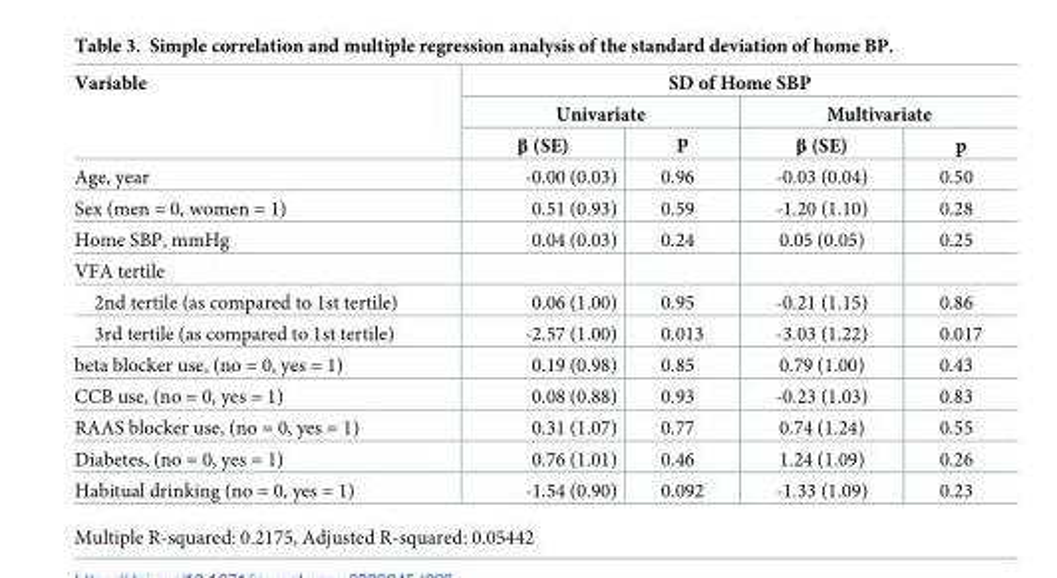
<table><thead><tr><td rowspan="3">Variable</td><td colspan="4">SD of Home SBP</td></tr><tr><td colspan="2">Univariate</td><td colspan="2">Multivariate</td></tr><tr><td>β (SE)</td><td>P</td><td>β (SE)</td><td>p</td></tr></thead><tbody><tr><td>Age, year</td><td>-0.00 (0.03)</td><td>0.96</td><td>-0.03 (0.04)</td><td>0.50</td></tr><tr><td>Sex (men = 0, women = 1)</td><td>0.51 (0.93)</td><td>0.59</td><td>-1.20 (1.10)</td><td>0.28</td></tr><tr><td>Home SBP, mmHg</td><td>0.04 (0.03)</td><td>0.24</td><td>0.05 (0.05)</td><td>0.25</td></tr><tr><td colspan="5">VFA tertile</td></tr><tr><td>2nd tertile (as compared to 1st tertile)</td><td>0.06 (1.00)</td><td>0.95</td><td>-0.21 (1.15)</td><td>0.86</td></tr><tr><td>3rd tertile (as compared to 1st tertile)</td><td>-2.57 (1.00)</td><td>0.013</td><td>-3.03 (1.22)</td><td>0.017</td></tr><tr><td>beta blocker use, (no = 0, yes = 1)</td><td>0.19 (0.98)</td><td>0.85</td><td>0.79 (1.00)</td><td>0.43</td></tr><tr><td>CCB use, (no = 0, yes = 1)</td><td>0.08 (0.88)</td><td>0.93</td><td>-0.23 (1.03)</td><td>0.83</td></tr><tr><td>RAAS blocker use, (no = 0, yes = 1)</td><td>0.31 (1.07)</td><td>0.77</td><td>0.74 (1.24)</td><td>0.55</td></tr><tr><td>Diabetes, (no = 0, yes = 1)</td><td>0.76 (1.01)</td><td>0.46</td><td>1.24 (1.09)</td><td>0.26</td></tr><tr><td>Habitual drinking (no = 0, yes = 1)</td><td>-1.54 (0.90)</td><td>0.092</td><td>-1.33 (1.09)</td><td>0.23</td></tr></tbody></table>